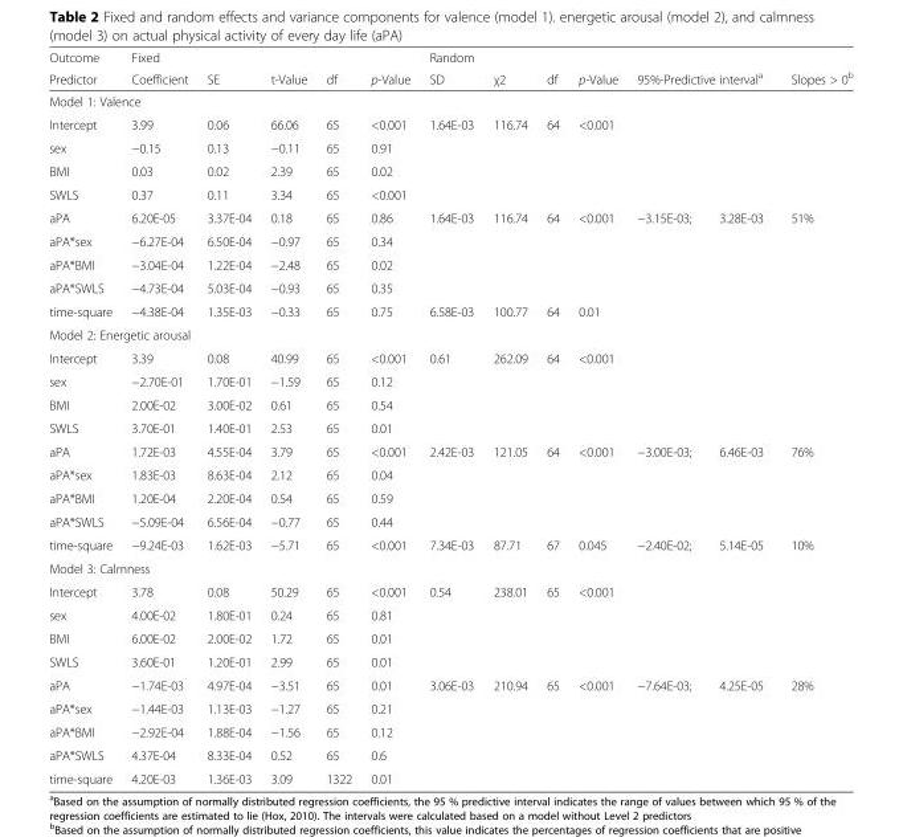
<table><thead><tr><td rowspan="2">Outcome Predictor</td><td rowspan="2">Fixed Coefficient</td><td rowspan="2">SE</td><td rowspan="2">t-Value</td><td rowspan="2">df</td><td rowspan="2">p-Value</td><td rowspan="2">Random SD</td><td rowspan="2">χ2</td><td rowspan="2">df</td><td rowspan="2">p-Value</td><td></td><td></td><td rowspan="2">Slopes &gt; 0<sup>b</sup></td></tr><tr><td colspan="2">95%-Predictive interval<sup>a</sup></td></tr></thead><tbody><tr><td colspan="13">Model 1: Valence</td></tr><tr><td>Intercept</td><td>3.99</td><td>0.06</td><td>66.06</td><td>65</td><td>&lt;0.001</td><td>1.64E-03</td><td>116.74</td><td>64</td><td>&lt;0.001</td><td></td><td></td><td></td></tr><tr><td>sex</td><td>−0.15</td><td>0.13</td><td>−0.11</td><td>65</td><td>0.91</td><td></td><td></td><td></td><td></td><td></td><td></td><td></td></tr><tr><td>BMI</td><td>0.03</td><td>0.02</td><td>2.39</td><td>65</td><td>0.02</td><td></td><td></td><td></td><td></td><td></td><td></td><td></td></tr><tr><td>SWLS</td><td>0.37</td><td>0.11</td><td>3.34</td><td>65</td><td>&lt;0.001</td><td></td><td></td><td></td><td></td><td></td><td></td><td></td></tr><tr><td>aPA</td><td>6.20E-05</td><td>3.37E-04</td><td>0.18</td><td>65</td><td>0.86</td><td>1.64E-03</td><td>116.74</td><td>64</td><td>&lt;0.001</td><td>−3.15E-03;</td><td>3.28E-03</td><td>51%</td></tr><tr><td>aPA*sex</td><td>−6.27E-04</td><td>6.50E-04</td><td>−0.97</td><td>65</td><td>0.34</td><td></td><td></td><td></td><td></td><td></td><td></td><td></td></tr><tr><td>aPA*BMI</td><td>−3.04E-04</td><td>1.22E-04</td><td>−2.48</td><td>65</td><td>0.02</td><td></td><td></td><td></td><td></td><td></td><td></td><td></td></tr><tr><td>aPA*SWLS</td><td>−4.73E-04</td><td>5.03E-04</td><td>−0.93</td><td>65</td><td>0.35</td><td></td><td></td><td></td><td></td><td></td><td></td><td></td></tr><tr><td>time-square</td><td>−4.38E-04</td><td>1.35E-03</td><td>−0.33</td><td>65</td><td>0.75</td><td>6.58E-03</td><td>100.77</td><td>64</td><td>0.01</td><td></td><td></td><td></td></tr><tr><td colspan="13">Model 2: Energetic arousal</td></tr><tr><td>Intercept</td><td>3.39</td><td>0.08</td><td>40.99</td><td>65</td><td>&lt;0.001</td><td>0.61</td><td>262.09</td><td>64</td><td>&lt;0.001</td><td></td><td></td><td></td></tr><tr><td>sex</td><td>−2.70E-01</td><td>1.70E-01</td><td>−1.59</td><td>65</td><td>0.12</td><td></td><td></td><td></td><td></td><td></td><td></td><td></td></tr><tr><td>BMI</td><td>2.00E-02</td><td>3.00E-02</td><td>0.61</td><td>65</td><td>0.54</td><td></td><td></td><td></td><td></td><td></td><td></td><td></td></tr><tr><td>SWLS</td><td>3.70E-01</td><td>1.40E-01</td><td>2.53</td><td>65</td><td>0.01</td><td></td><td></td><td></td><td></td><td></td><td></td><td></td></tr><tr><td>aPA</td><td>1.72E-03</td><td>4.55E-04</td><td>3.79</td><td>65</td><td>&lt;0.001</td><td>2.42E-03</td><td>121.05</td><td>64</td><td>&lt;0.001</td><td>−3.00E-03;</td><td>6.46E-03</td><td>76%</td></tr><tr><td>aPA*sex</td><td>1.83E-03</td><td>8.63E-04</td><td>2.12</td><td>65</td><td>0.04</td><td></td><td></td><td></td><td></td><td></td><td></td><td></td></tr><tr><td>aPA*BMI</td><td>1.20E-04</td><td>2.20E-04</td><td>0.54</td><td>65</td><td>0.59</td><td></td><td></td><td></td><td></td><td></td><td></td><td></td></tr><tr><td>aPA*SWLS</td><td>−5.09E-04</td><td>6.56E-04</td><td>−0.77</td><td>65</td><td>0.44</td><td></td><td></td><td></td><td></td><td></td><td></td><td></td></tr><tr><td>time-square</td><td>−9.24E-03</td><td>1.62E-03</td><td>−5.71</td><td>65</td><td>&lt;0.001</td><td>7.34E-03</td><td>87.71</td><td>67</td><td>0.045</td><td>−2.40E-02;</td><td>5.14E-05</td><td>10%</td></tr><tr><td colspan="13">Model 3: Calmness</td></tr><tr><td>Intercept</td><td>3.78</td><td>0.08</td><td>50.29</td><td>65</td><td>&lt;0.001</td><td>0.54</td><td>238.01</td><td>65</td><td>&lt;0.001</td><td></td><td></td><td></td></tr><tr><td>sex</td><td>4.00E-02</td><td>1.80E-01</td><td>0.24</td><td>65</td><td>0.81</td><td></td><td></td><td></td><td></td><td></td><td></td><td></td></tr><tr><td>BMI</td><td>6.00E-02</td><td>2.00E-02</td><td>1.72</td><td>65</td><td>0.01</td><td></td><td></td><td></td><td></td><td></td><td></td><td></td></tr><tr><td>SWLS</td><td>3.60E-01</td><td>1.20E-01</td><td>2.99</td><td>65</td><td>0.01</td><td></td><td></td><td></td><td></td><td></td><td></td><td></td></tr><tr><td>aPA</td><td>−1.74E-03</td><td>4.97E-04</td><td>−3.51</td><td>65</td><td>0.01</td><td>3.06E-03</td><td>210.94</td><td>65</td><td>&lt;0.001</td><td>−7.64E-03;</td><td>4.25E-05</td><td>28%</td></tr><tr><td>aPA*sex</td><td>−1.44E-03</td><td>1.13E-03</td><td>−1.27</td><td>65</td><td>0.21</td><td></td><td></td><td></td><td></td><td></td><td></td><td></td></tr><tr><td>aPA*BMI</td><td>−2.92E-04</td><td>1.88E-04</td><td>−1.56</td><td>65</td><td>0.12</td><td></td><td></td><td></td><td></td><td></td><td></td><td></td></tr><tr><td>aPA*SWLS</td><td>4.37E-04</td><td>8.33E-04</td><td>0.52</td><td>65</td><td>0.6</td><td></td><td></td><td></td><td></td><td></td><td></td><td></td></tr><tr><td>time-square</td><td>4.20E-03</td><td>1.36E-03</td><td>3.09</td><td>1322</td><td>0.01</td><td></td><td></td><td></td><td></td><td></td><td></td><td></td></tr></tbody></table>